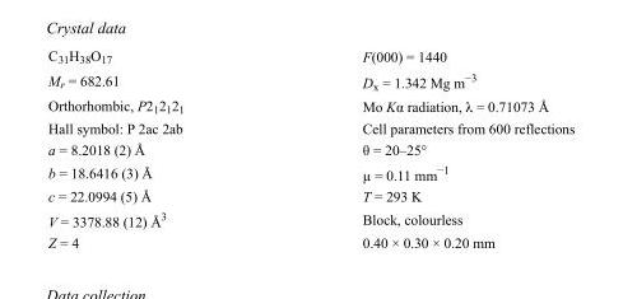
<table><tbody><tr><td>C<sub>31</sub>H<sub>38</sub>O<sub>17</sub></td><td>F(000) = 1440</td></tr><tr><td>M<sub>r</sub> = 682.61</td><td>D<sub>x</sub> = 1.342 Mg m<sup>−3</sup></td></tr><tr><td>Orthorhombic, P2<sub>1</sub>2<sub>1</sub>2<sub>1</sub></td><td>Mo Kα radiation, λ = 0.71073 Å</td></tr><tr><td>Hall symbol: P 2ac 2ab</td><td>Cell parameters from 600 reflections</td></tr><tr><td>a = 8.2018 (2) Å</td><td>θ = 20–25°</td></tr><tr><td>b = 18.6416 (3) Å</td><td>µ = 0.11 mm<sup>−1</sup></td></tr><tr><td>c = 22.0994 (5) Å</td><td>T = 293 K</td></tr><tr><td>V = 3378.88 (12) Å<sup>3</sup></td><td>Block, colourless</td></tr><tr><td>Z = 4</td><td>0.40 × 0.30 × 0.20 mm</td></tr></tbody></table>